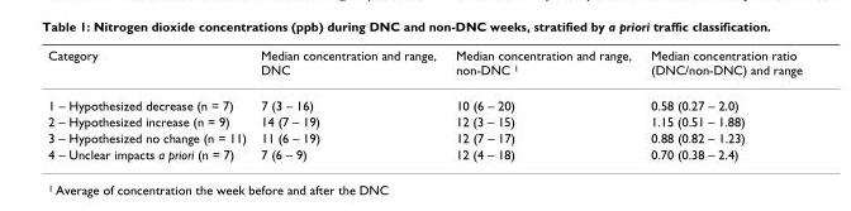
<table><thead><tr><td>Category</td><td>Median concentration and range, DNC</td><td>Median concentration and range, non-DNC <sup>1</sup></td><td>Median concentration ratio (DNC/non-DNC) and range</td></tr></thead><tbody><tr><td>1 – Hypothesized decrease (n = 7)</td><td>7 (3 – 16)</td><td>10 (6 – 20)</td><td>0.58 (0.27 – 2.0)</td></tr><tr><td>2 – Hypothesized increase (n = 9)</td><td>14 (7 – 19)</td><td>12 (3 – 15)</td><td>1.15 (0.51 – 1.88)</td></tr><tr><td>3 – Hypothesized no change (n = 11)</td><td>11 (6 – 19)</td><td>12 (7 – 17)</td><td>0.88 (0.82 – 1.23)</td></tr><tr><td>4 – Unclear impacts a priori (n = 7)</td><td>7 (6 – 9)</td><td>12 (4 – 18)</td><td>0.70 (0.38 – 2.4)</td></tr></tbody></table>